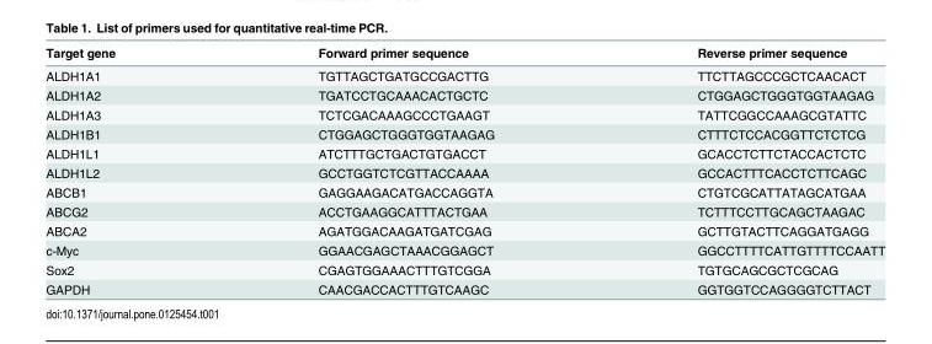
<table><thead><tr><td>Target gene</td><td>Forward primer sequence</td><td>Reverse primer sequence</td></tr></thead><tbody><tr><td>ALDH1A1</td><td>TGTTAGCTGATGCCGACTTG</td><td>TTCTTAGCCCGCTCAACACT</td></tr><tr><td>ALDH1A2</td><td>TGATCCTGCAAACACTGCTC</td><td>CTGGAGCTGGGTGGTAAGAG</td></tr><tr><td>ALDH1A3</td><td>TCTCGACAAAGCCCTGAAGT</td><td>TATTCGGCCAAAGCGTATTC</td></tr><tr><td>ALDH1B1</td><td>CTGGAGCTGGGTGGTAAGAG</td><td>CTTTCTCCACGGTTCTCTCG</td></tr><tr><td>ALDH1L1</td><td>ATCTTTGCTGACTGTGACCT</td><td>GCACCTCTTCTACCACTCTC</td></tr><tr><td>ALDH1L2</td><td>GCCTGGTCTCGTTACCAAAA</td><td>GCCACTTTCACCTCTTCAGC</td></tr><tr><td>ABCB1</td><td>GAGGAAGACATGACCAGGTA</td><td>CTGTCGCATTATAGCATGAA</td></tr><tr><td>ABCG2</td><td>ACCTGAAGGCATTTACTGAA</td><td>TCTTTCCTTGCAGCTAAGAC</td></tr><tr><td>ABCA2</td><td>AGATGGACAAGATGATCGAG</td><td>GCTTGTACTTCAGGATGAGG</td></tr><tr><td>c-Myc</td><td>GGAACGAGCTAAACGGAGCT</td><td>GGCCTTTTCATTGTTTTCCAATT</td></tr><tr><td>Sox2</td><td>CGAGTGGAAACTTTGTCGGA</td><td>TGTGCAGCGCTCGCAG</td></tr><tr><td>GAPDH</td><td>CAACGACCACTTTGTCAAGC</td><td>GGTGGTCCAGGGGTCTTACT</td></tr></tbody></table>